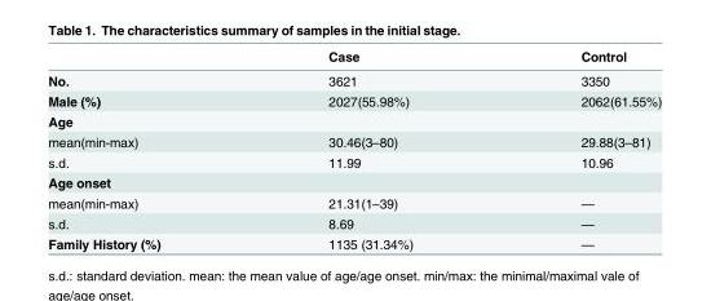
<table><thead><tr><td></td><td>Case</td><td>Control</td></tr></thead><tbody><tr><td>No.</td><td>3621</td><td>3350</td></tr><tr><td>Male (%)</td><td>2027(55.98%)</td><td>2062(61.55%)</td></tr><tr><td colspan="3">Age</td></tr><tr><td>mean(min-max)</td><td>30.46(3–80)</td><td>29.88(3–81)</td></tr><tr><td>s.d.</td><td>11.99</td><td>10.96</td></tr><tr><td colspan="3">Age onset</td></tr><tr><td>mean(min-max)</td><td>21.31(1–39)</td><td>—</td></tr><tr><td>s.d.</td><td>8.69</td><td>—</td></tr><tr><td>Family History (%)</td><td>1135 (31.34%)</td><td>—</td></tr></tbody></table>